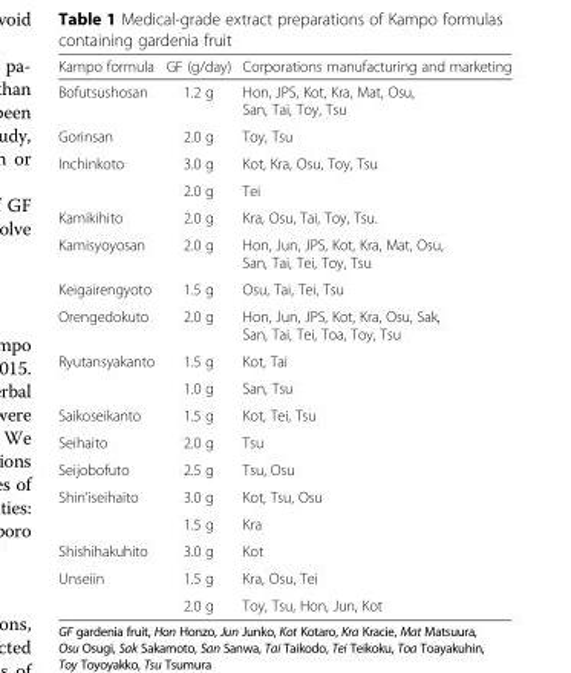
<table><thead><tr><td>Kampo formula</td><td>GF (g/day)</td><td>Corporations manufacturing and marketing</td></tr></thead><tbody><tr><td>Bofutsushosan</td><td>1.2 g</td><td>Hon, JPS, Kot, Kra, Mat, Osu, San, Tai, Toy, Tsu</td></tr><tr><td>Gorinsan</td><td>2.0 g</td><td>Toy, Tsu</td></tr><tr><td rowspan="2">Inchinkoto</td><td>3.0 g</td><td>Kot, Kra, Osu, Toy, Tsu</td></tr><tr><td>2.0 g</td><td>Tei</td></tr><tr><td>Kamikihito</td><td>2.0 g</td><td>Kra, Osu, Tai, Toy, Tsu.</td></tr><tr><td>Kamisyoyosan</td><td>2.0 g</td><td>Hon, Jun, JPS, Kot, Kra, Mat, Osu, San, Tai, Tei, Toy, Tsu</td></tr><tr><td>Keigairengyoto</td><td>1.5 g</td><td>Osu, Tai, Tei, Tsu</td></tr><tr><td>Orengedokuto</td><td>2.0 g</td><td>Hon, Jun, JPS, Kot, Kra, Osu, Sak, San, Tai, Tei, Toa, Toy, Tsu</td></tr><tr><td rowspan="2">Ryutansyakanto</td><td>1.5 g</td><td>Kot, Tai</td></tr><tr><td>1.0 g</td><td>San, Tsu</td></tr><tr><td>Saikoseikanto</td><td>1.5 g</td><td>Kot, Tei, Tsu</td></tr><tr><td>Seihaito</td><td>2.0 g</td><td>Tsu</td></tr><tr><td>Seijobofuto</td><td>2.5 g</td><td>Tsu, Osu</td></tr><tr><td rowspan="2">Shin’iseihaito</td><td>3.0 g</td><td>Kot, Tsu, Osu</td></tr><tr><td>1.5 g</td><td>Kra</td></tr><tr><td>Shishihakuhito</td><td>3.0 g</td><td>Kot</td></tr><tr><td rowspan="2">Unseiin</td><td>1.5 g</td><td>Kra, Osu, Tei</td></tr><tr><td>2.0 g</td><td>Toy, Tsu, Hon, Jun, Kot</td></tr></tbody></table>